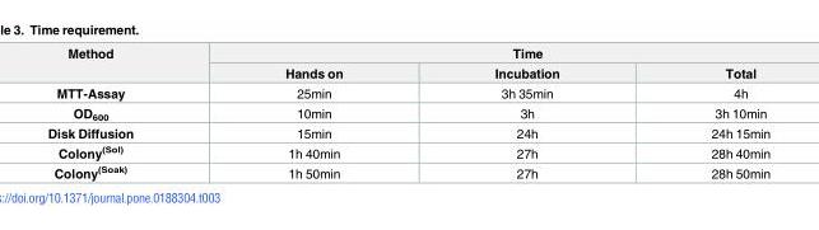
<table><thead><tr><td rowspan="2">Method</td><td colspan="3">Time</td></tr><tr><td>Hands on</td><td>Incubation</td><td>Total</td></tr></thead><tbody><tr><td>MTT-Assay</td><td>25min</td><td>3h 35min</td><td>4h</td></tr><tr><td>OD<sub>600</sub></td><td>10min</td><td>3h</td><td>3h 10min</td></tr><tr><td>Disk Diffusion</td><td>15min</td><td>24h</td><td>24h 15min</td></tr><tr><td>Colony<sup>(Sol)</sup></td><td>1h 40min</td><td>27h</td><td>28h 40min</td></tr><tr><td>Colony<sup>(Soak)</sup></td><td>1h 50min</td><td>27h</td><td>28h 50min</td></tr></tbody></table>